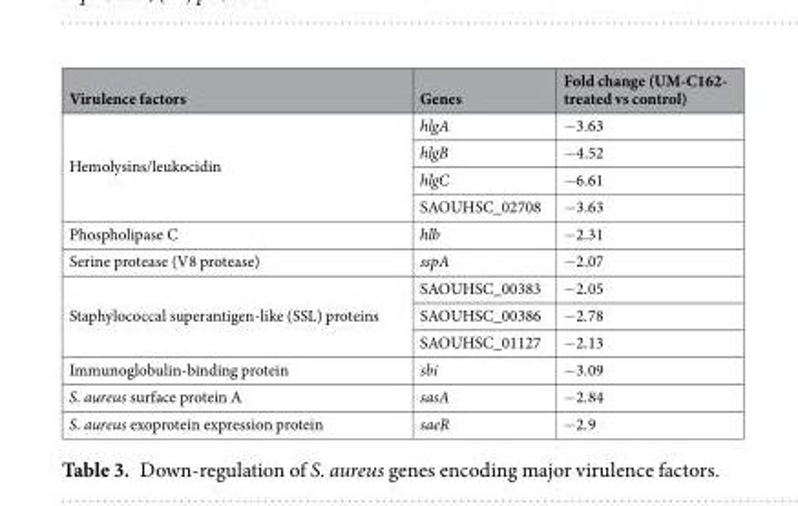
<table><thead><tr><td>Virulence factors</td><td>Genes</td><td>Fold change (UM-C162- treated vs control)</td></tr></thead><tbody><tr><td rowspan="4">Hemolysins/leukocidin</td><td>hlgA</td><td>−3.63</td></tr><tr><td>hlgB</td><td>−4.52</td></tr><tr><td>hlgC</td><td>−6.61</td></tr><tr><td>SAOUHSC_02708</td><td>−3.63</td></tr><tr><td>Phospholipase C</td><td>hlb</td><td>−2.31</td></tr><tr><td>Serine protease (V8 protease)</td><td>sspA</td><td>−2.07</td></tr><tr><td rowspan="3">Staphylococcal superantigen-like (SSL) proteins</td><td>SAOUHSC_00383</td><td>−2.05</td></tr><tr><td>SAOUHSC_00386</td><td>−2.78</td></tr><tr><td>SAOUHSC_01127</td><td>−2.13</td></tr><tr><td>Immunoglobulin-binding protein</td><td>sbi</td><td>−3.09</td></tr><tr><td>S. aureus surface protein A</td><td>sasA</td><td>−2.84</td></tr><tr><td>S. aureus exoprotein expression protein</td><td>saeR</td><td>−2.9</td></tr></tbody></table>